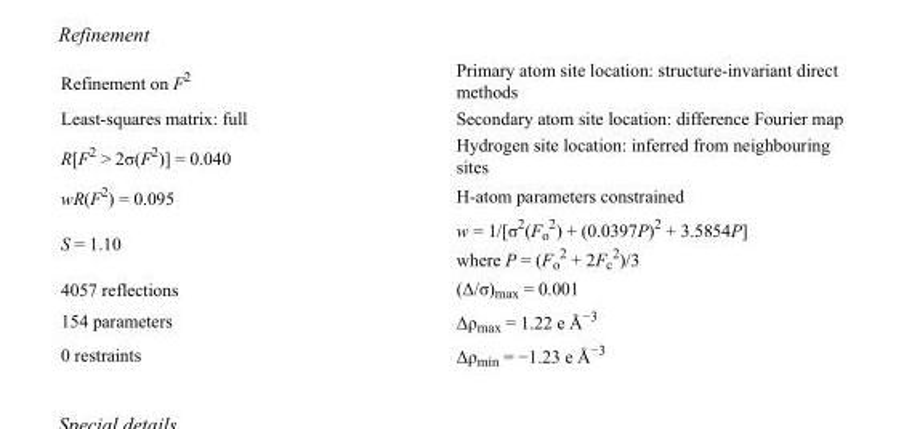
<table><tbody><tr><td>Refinement on F<sup>2</sup></td><td>Primary atom site location: structure-invariant direct methods</td></tr><tr><td>Least-squares matrix: full</td><td>Secondary atom site location: difference Fourier map</td></tr><tr><td>R[F<sup>2</sup> &gt; 2σ(F<sup>2</sup>)] = 0.040</td><td>Hydrogen site location: inferred from neighbouring sites</td></tr><tr><td>wR(F<sup>2</sup>) = 0.095</td><td>H-atom parameters constrained</td></tr><tr><td>S = 1.10</td><td>w = 1/[σ<sup>2</sup>(F<sub>o</sub> <sup>2</sup>) + (0.0397P)<sup>2</sup> + 3.5854P] where P = (F<sub>o</sub> <sup>2</sup> + 2F<sub>c</sub> <sup>2</sup>)/3</td></tr><tr><td>4057 reflections</td><td>(Δ/σ)<sub>max</sub> = 0.001</td></tr><tr><td>154 parameters</td><td>Δρ<sub>max</sub> = 1.22 e Å<sup>−3</sup></td></tr><tr><td>0 restraints</td><td>Δρ<sub>min</sub> = −1.23 e Å<sup>−3</sup></td></tr></tbody></table>